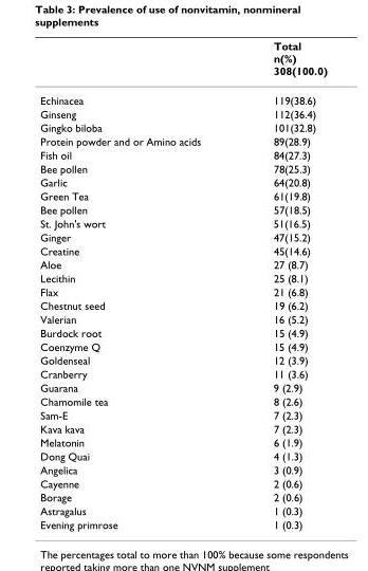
<table><thead><tr><td></td><td>Total n(%) 308(100.0)</td></tr></thead><tbody><tr><td>Echinacea</td><td>119(38.6)</td></tr><tr><td>Ginseng</td><td>112(36.4)</td></tr><tr><td>Gingko biloba</td><td>101(32.8)</td></tr><tr><td>Protein powder and or Amino acids</td><td>89(28.9)</td></tr><tr><td>Fish oil</td><td>84(27.3)</td></tr><tr><td>Bee pollen</td><td>78(25.3)</td></tr><tr><td>Garlic</td><td>64(20.8)</td></tr><tr><td>Green Tea</td><td>61(19.8)</td></tr><tr><td>Bee pollen</td><td>57(18.5)</td></tr><tr><td>St. John&#x27;s wort</td><td>51(16.5)</td></tr><tr><td>Ginger</td><td>47(15.2)</td></tr><tr><td>Creatine</td><td>45(14.6)</td></tr><tr><td>Aloe</td><td>27 (8.7)</td></tr><tr><td>Lecithin</td><td>25 (8.1)</td></tr><tr><td>Flax</td><td>21 (6.8)</td></tr><tr><td>Chestnut seed</td><td>19 (6.2)</td></tr><tr><td>Valerian</td><td>16 (5.2)</td></tr><tr><td>Burdock root</td><td>15 (4.9)</td></tr><tr><td>Coenzyme Q</td><td>15 (4.9)</td></tr><tr><td>Goldenseal</td><td>12 (3.9)</td></tr><tr><td>Cranberry</td><td>11 (3.6)</td></tr><tr><td>Guarana</td><td>9 (2.9)</td></tr><tr><td>Chamomile tea</td><td>8 (2.6)</td></tr><tr><td>Sam-E</td><td>7 (2.3)</td></tr><tr><td>Kava kava</td><td>7 (2.3)</td></tr><tr><td>Melatonin</td><td>6 (1.9)</td></tr><tr><td>Dong Quai</td><td>4 (1.3)</td></tr><tr><td>Angelica</td><td>3 (0.9)</td></tr><tr><td>Cayenne</td><td>2 (0.6)</td></tr><tr><td>Borage</td><td>2 (0.6)</td></tr><tr><td>Astragalus</td><td>1 (0.3)</td></tr><tr><td>Evening primrose</td><td>1 (0.3)</td></tr></tbody></table>